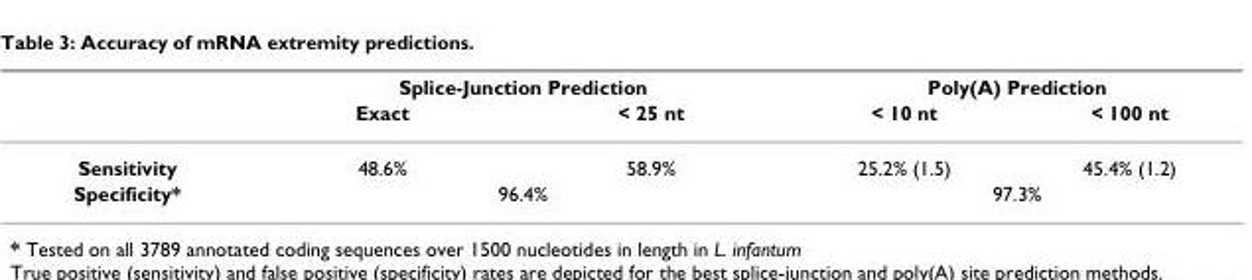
<table><thead><tr><td rowspan="2"></td><td colspan="2">Splice-Junction Prediction</td><td colspan="2">Poly(A) Prediction</td></tr><tr><td>Exact</td><td>&lt; 25 nt</td><td>&lt; 10 nt</td><td>&lt; 100 nt</td></tr></thead><tbody><tr><td>Sensitivity</td><td>48.6%</td><td>58.9%</td><td>25.2% (1.5)</td><td>45.4% (1.2)</td></tr><tr><td>Specificity*</td><td colspan="2">96.4%</td><td colspan="2">97.3%</td></tr></tbody></table>